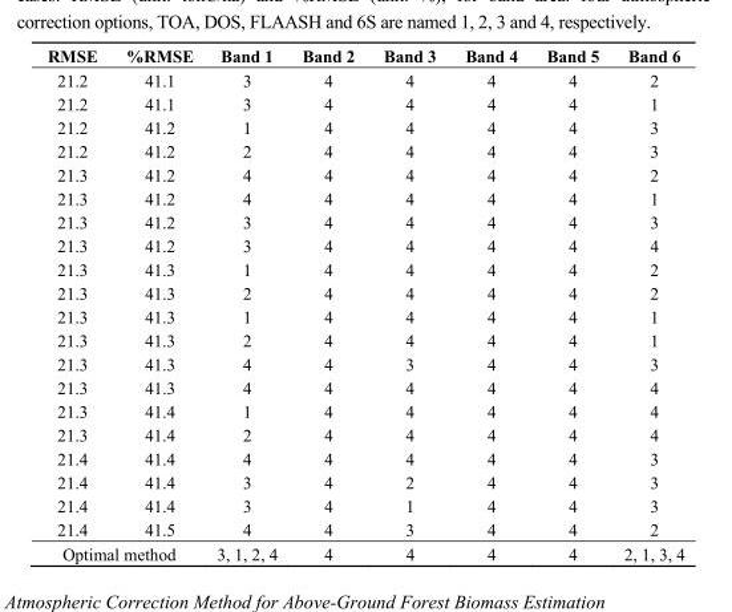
<table><thead><tr><td>RMSE</td><td>%RMSE</td><td>Band 1</td><td>Band 2</td><td>Band 3</td><td>Band 4</td><td>Band 5</td><td>Band 6</td></tr></thead><tbody><tr><td>21.2</td><td>41.1</td><td>3</td><td>4</td><td>4</td><td>4</td><td>4</td><td>2</td></tr><tr><td>21.2</td><td>41.1</td><td>3</td><td>4</td><td>4</td><td>4</td><td>4</td><td>1</td></tr><tr><td>21.2</td><td>41.2</td><td>1</td><td>4</td><td>4</td><td>4</td><td>4</td><td>3</td></tr><tr><td>21.2</td><td>41.2</td><td>2</td><td>4</td><td>4</td><td>4</td><td>4</td><td>3</td></tr><tr><td>21.3</td><td>41.2</td><td>4</td><td>4</td><td>4</td><td>4</td><td>4</td><td>2</td></tr><tr><td>21.3</td><td>41.2</td><td>4</td><td>4</td><td>4</td><td>4</td><td>4</td><td>1</td></tr><tr><td>21.3</td><td>41.2</td><td>3</td><td>4</td><td>4</td><td>4</td><td>4</td><td>3</td></tr><tr><td>21.3</td><td>41.2</td><td>3</td><td>4</td><td>4</td><td>4</td><td>4</td><td>4</td></tr><tr><td>21.3</td><td>41.3</td><td>1</td><td>4</td><td>4</td><td>4</td><td>4</td><td>2</td></tr><tr><td>21.3</td><td>41.3</td><td>2</td><td>4</td><td>4</td><td>4</td><td>4</td><td>2</td></tr><tr><td>21.3</td><td>41.3</td><td>1</td><td>4</td><td>4</td><td>4</td><td>4</td><td>1</td></tr><tr><td>21.3</td><td>41.3</td><td>2</td><td>4</td><td>4</td><td>4</td><td>4</td><td>1</td></tr><tr><td>21.3</td><td>41.3</td><td>4</td><td>4</td><td>3</td><td>4</td><td>4</td><td>3</td></tr><tr><td>21.3</td><td>41.3</td><td>4</td><td>4</td><td>4</td><td>4</td><td>4</td><td>4</td></tr><tr><td>21.3</td><td>41.4</td><td>1</td><td>4</td><td>4</td><td>4</td><td>4</td><td>4</td></tr><tr><td>21.3</td><td>41.4</td><td>2</td><td>4</td><td>4</td><td>4</td><td>4</td><td>4</td></tr><tr><td>21.4</td><td>41.4</td><td>4</td><td>4</td><td>4</td><td>4</td><td>4</td><td>3</td></tr><tr><td>21.4</td><td>41.4</td><td>3</td><td>4</td><td>2</td><td>4</td><td>4</td><td>3</td></tr><tr><td>21.4</td><td>41.4</td><td>3</td><td>4</td><td>1</td><td>4</td><td>4</td><td>3</td></tr><tr><td>21.4</td><td>41.5</td><td>4</td><td>4</td><td>3</td><td>4</td><td>4</td><td>2</td></tr><tr><td colspan="2">Optimal method</td><td>3, 1, 2, 4</td><td>4</td><td>4</td><td>4</td><td>4</td><td>2, 1, 3, 4</td></tr></tbody></table>